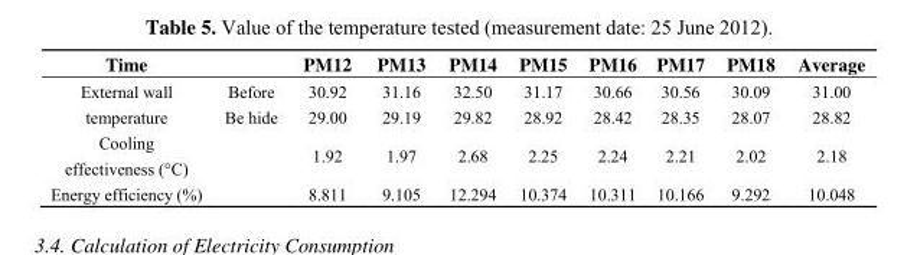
<table><thead><tr><td>Time</td><td></td><td>PM12</td><td>PM13</td><td>PM14</td><td>PM15</td><td>PM16</td><td>PM17</td><td>PM18</td><td>Average</td></tr></thead><tbody><tr><td rowspan="2">External wall temperature</td><td>Before</td><td>30.92</td><td>31.16</td><td>32.50</td><td>31.17</td><td>30.66</td><td>30.56</td><td>30.09</td><td>31.00</td></tr><tr><td>Be hide</td><td>29.00</td><td>29.19</td><td>29.82</td><td>28.92</td><td>28.42</td><td>28.35</td><td>28.07</td><td>28.82</td></tr><tr><td>Cooling effectiveness (°C)</td><td></td><td>1.92</td><td>1.97</td><td>2.68</td><td>2.25</td><td>2.24</td><td>2.21</td><td>2.02</td><td>2.18</td></tr><tr><td>Energy efficiency (%)</td><td></td><td>8.811</td><td>9.105</td><td>12.294</td><td>10.374</td><td>10.311</td><td>10.166</td><td>9.292</td><td>10.048</td></tr></tbody></table>